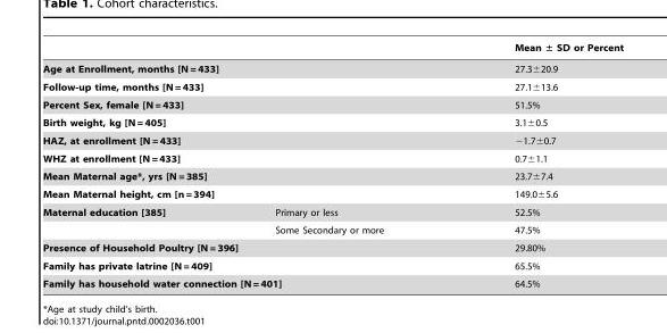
<table><thead><tr><td></td><td></td><td>Mean ± SD or Percent</td></tr></thead><tbody><tr><td colspan="2">Age at Enrollment, months [N = 433]</td><td>27.3±20.9</td></tr><tr><td colspan="2">Follow-up time, months [N = 433]</td><td>27.1±13.6</td></tr><tr><td colspan="2">Percent Sex, female [N = 433]</td><td>51.5%</td></tr><tr><td colspan="2">Birth weight, kg [N = 405]</td><td>3.1±0.5</td></tr><tr><td colspan="2">HAZ, at enrollment [N = 433]</td><td>−1.7±0.7</td></tr><tr><td colspan="2">WHZ at enrollment [N = 433]</td><td>0.7±1.1</td></tr><tr><td colspan="2">Mean Maternal age*, yrs [N = 385]</td><td>23.7±7.4</td></tr><tr><td colspan="2">Mean Maternal height, cm [n = 394]</td><td>149.0±5.6</td></tr><tr><td rowspan="2">Maternal education [385]</td><td>Primary or less</td><td>52.5%</td></tr><tr><td>Some Secondary or more</td><td>47.5%</td></tr><tr><td colspan="2">Presence of Household Poultry [N = 396]</td><td>29.80%</td></tr><tr><td colspan="2">Family has private latrine [N = 409]</td><td>65.5%</td></tr><tr><td colspan="2">Family has household water connection [N = 401]</td><td>64.5%</td></tr></tbody></table>